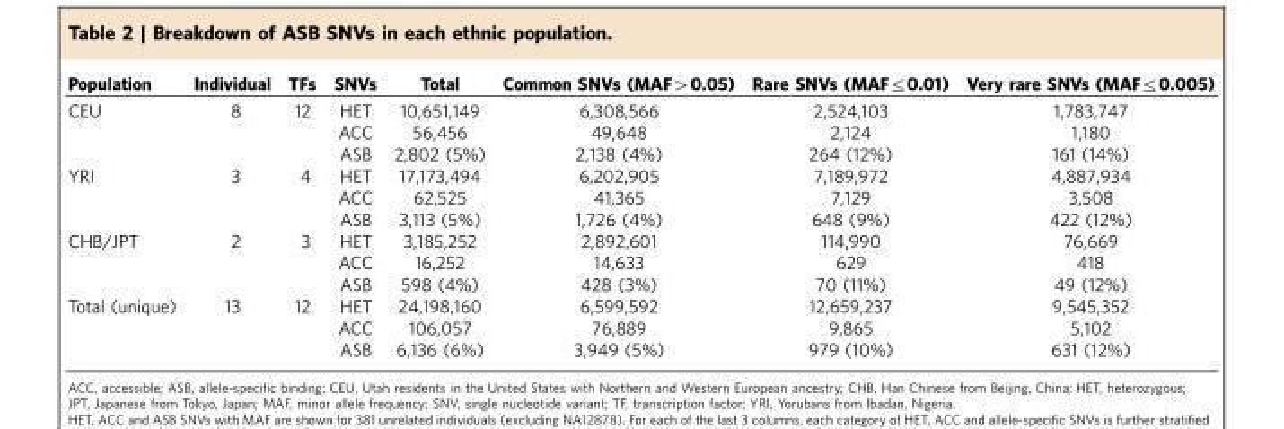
<table><thead><tr><td>Population</td><td>Individual</td><td>TFs</td><td>SNVs</td><td>Total</td><td>Common SNVs (MAF&gt;0.05)</td><td>Rare SNVs (MAF≤0.01)</td><td>Very rare SNVs (MAF≤0.005)</td></tr></thead><tbody><tr><td rowspan="3">CEU</td><td>8</td><td>12</td><td>HET</td><td>10,651,149</td><td>6,308,566</td><td>2,524,103</td><td>1,783,747</td></tr><tr><td></td><td></td><td>ACC</td><td>56,456</td><td>49,648</td><td>2,124</td><td>1,180</td></tr><tr><td></td><td></td><td>ASB</td><td>2,802 (5%)</td><td>2,138 (4%)</td><td>264 (12%)</td><td>161 (14%)</td></tr><tr><td rowspan="3">YRI</td><td>3</td><td>4</td><td>HET</td><td>17,173,494</td><td>6,202,905</td><td>7,189,972</td><td>4,887,934</td></tr><tr><td></td><td></td><td>ACC</td><td>62,525</td><td>41,365</td><td>7,129</td><td>3,508</td></tr><tr><td></td><td></td><td>ASB</td><td>3,113 (5%)</td><td>1,726 (4%)</td><td>648 (9%)</td><td>422 (12%)</td></tr><tr><td rowspan="3">CHB/JPT</td><td>2</td><td>3</td><td>HET</td><td>3,185,252</td><td>2,892,601</td><td>114,990</td><td>76,669</td></tr><tr><td></td><td></td><td>ACC</td><td>16,252</td><td>14,633</td><td>629</td><td>418</td></tr><tr><td></td><td></td><td>ASB</td><td>598 (4%)</td><td>428 (3%)</td><td>70 (11%)</td><td>49 (12%)</td></tr><tr><td rowspan="3">Total (unique)</td><td>13</td><td>12</td><td>HET</td><td>24,198,160</td><td>6,599,592</td><td>12,659,237</td><td>9,545,352</td></tr><tr><td></td><td></td><td>ACC</td><td>106,057</td><td>76,889</td><td>9,865</td><td>5,102</td></tr><tr><td></td><td></td><td>ASB</td><td>6,136 (6%)</td><td>3,949 (5%)</td><td>979 (10%)</td><td>631 (12%)</td></tr></tbody></table>